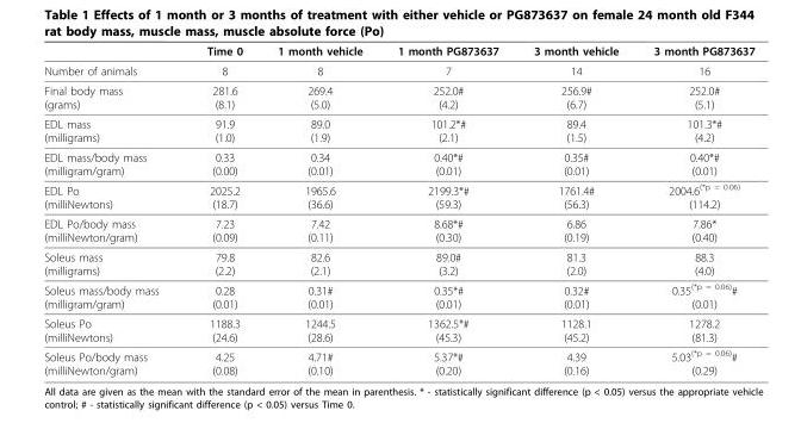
<table><thead><tr><td></td><td>Time 0</td><td>1 month vehicle</td><td>1 month PG873637</td><td>3 month vehicle</td><td>3 month PG873637</td></tr></thead><tbody><tr><td>Number of animals</td><td>8</td><td>8</td><td>7</td><td>14</td><td>16</td></tr><tr><td>Final body mass (grams)</td><td>281.6 (8.1)</td><td>269.4 (5.0)</td><td>252.0# (4.2)</td><td>256.9# (6.7)</td><td>252.0# (5.1)</td></tr><tr><td>EDL mass (milligrams)</td><td>91.9 (1.0)</td><td>89.0 (1.9)</td><td>101.2*# (2.1)</td><td>89.4 (1.5)</td><td>101.3*# (4.2)</td></tr><tr><td>EDL mass/body mass (milligram/gram)</td><td>0.33 (0.00)</td><td>0.34 (0.01)</td><td>0.40*# (0.01)</td><td>0.35# (0.01)</td><td>0.40*# (0.01)</td></tr><tr><td>EDL Po (milliNewtons)</td><td>2025.2 (18.7)</td><td>1965.6 (36.6)</td><td>2199.3*# (59.3)</td><td>1761.4# (56.3)</td><td>2004.6<sup>(*p = 0.06)</sup> (114.2)</td></tr><tr><td>EDL Po/body mass (milliNewton/gram)</td><td>7.23 (0.09)</td><td>7.42 (0.11)</td><td>8.68*# (0.30)</td><td>6.86 (0.19)</td><td>7.86* (0.40)</td></tr><tr><td>Soleus mass (milligrams)</td><td>79.8 (2.2)</td><td>82.6 (2.1)</td><td>89.0# (3.2)</td><td>81.3 (2.0)</td><td>88.3 (4.0)</td></tr><tr><td>Soleus mass/body mass (milligram/gram)</td><td>0.28 (0.01)</td><td>0.31# (0.01)</td><td>0.35*# (0.01)</td><td>0.32# (0.01)</td><td>0.35<sup>(*p = 0.06)</sup># (0.01)</td></tr><tr><td>Soleus Po (milliNewtons)</td><td>1188.3 (24.6)</td><td>1244.5 (28.6)</td><td>1362.5*# (45.3)</td><td>1128.1 (45.2)</td><td>1278.2 (81.3)</td></tr><tr><td>Soleus Po/body mass (milliNewton/gram)</td><td>4.25 (0.08)</td><td>4.71# (0.10)</td><td>5.37*# (0.20)</td><td>4.39 (0.16)</td><td>5.03<sup>(*p = 0.06)</sup># (0.29)</td></tr></tbody></table>